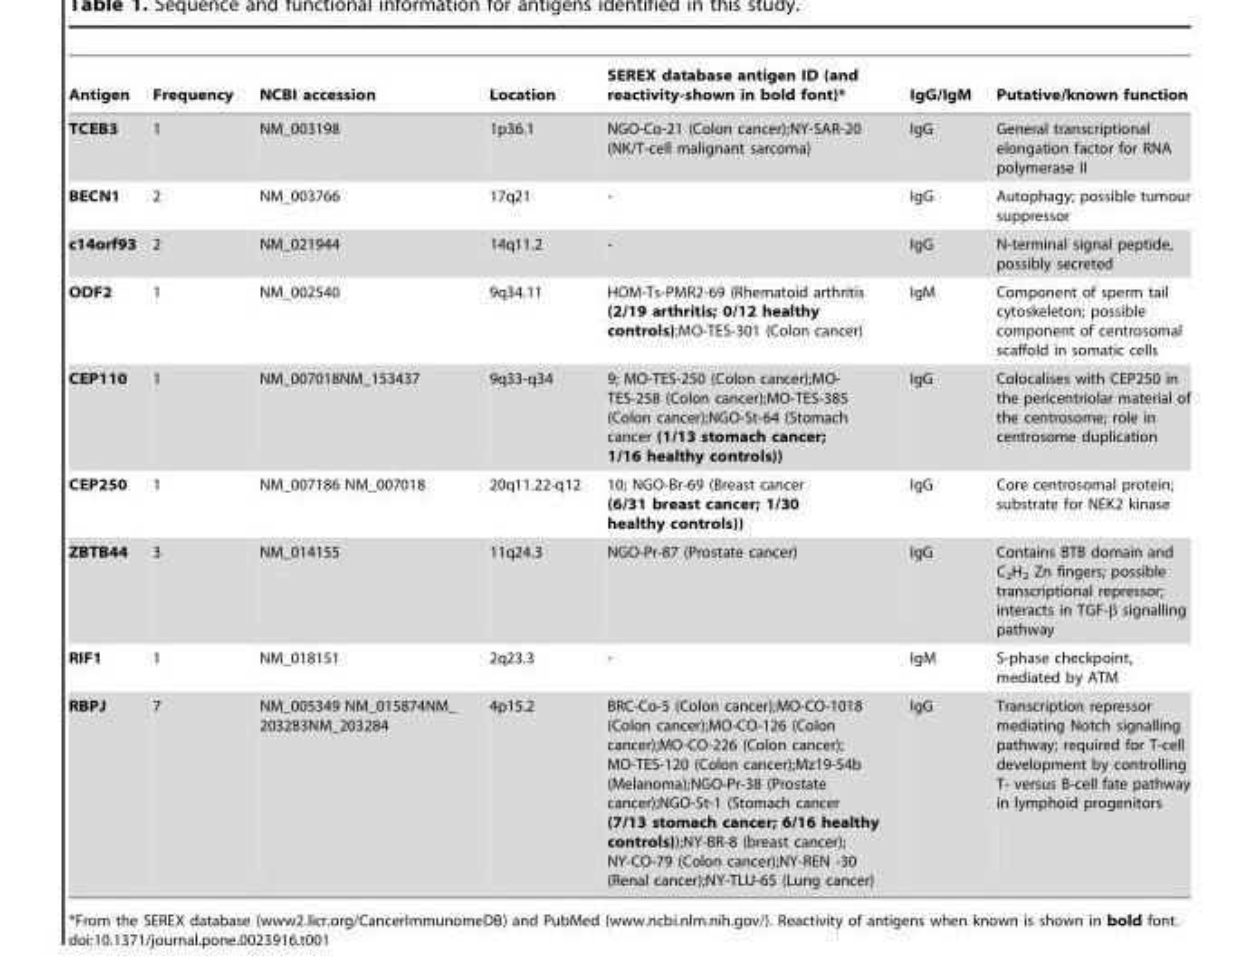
<table><thead><tr><td>Antigen</td><td>Frequency</td><td>NCBI accession</td><td>Location</td><td>SEREX database antigen ID (and reactivity-shown in bold font)*</td><td>IgG/IgM</td><td>Putative/known function</td></tr></thead><tbody><tr><td>TCEB3</td><td>1</td><td>NM_003198</td><td>1p36.1</td><td>NGO-Co-21 (Colon cancer);NY-SAR-20 (NK/T-cell malignant sarcoma)</td><td>IgG</td><td>General transcriptional elongation factor for RNA polymerase II</td></tr><tr><td>BECN1</td><td>2</td><td>NM_003766</td><td>17q21</td><td>-</td><td>IgG</td><td>Autophagy; possible tumour suppressor</td></tr><tr><td>c14orf93</td><td>2</td><td>NM_021944</td><td>14q11.2</td><td>-</td><td>IgG</td><td>N-terminal signal peptide, possibly secreted</td></tr><tr><td>ODF2</td><td>1</td><td>NM_002540</td><td>9q34.11</td><td>HOM-Ts-PMR2-69 (Rhematoid arthritis (2/19 arthritis; 0/12 healthy controls);MO-TES-301 (Colon cancer)</td><td>IgM</td><td>Component of sperm tail cytoskeleton; possible component of centrosomal scaffold in somatic cells</td></tr><tr><td>CEP110</td><td>1</td><td>NM_007018NM_153437</td><td>9q33-q34</td><td>9; MO-TES-250 (Colon cancer);MO- TES-258 (Colon cancer);MO-TES-385 (Colon cancer);NGO-St-64 (Stomach cancer (1/13 stomach cancer; 1/16 healthy controls))</td><td>IgG</td><td>Colocalises with CEP250 in the pericentriolar material of the centrosome; role in centrosome duplication</td></tr><tr><td>CEP250</td><td>1</td><td>NM_007186 NM_007018</td><td>20q11.22-q12</td><td>10; NGO-Br-69 (Breast cancer (6/31 breast cancer; 1/30 healthy controls))</td><td>IgG</td><td>Core centrosomal protein; substrate for NEK2 kinase</td></tr><tr><td>ZBTB44</td><td>3</td><td>NM_014155</td><td>11q24.3</td><td>NGO-Pr-87 (Prostate cancer)</td><td>IgG</td><td>Contains BTB domain and C<sub>2</sub>H<sub>2</sub> Zn fingers; possible transcriptional repressor; interacts in TGF-β signalling pathway</td></tr><tr><td>RIF1</td><td>1</td><td>NM_018151</td><td>2q23.3</td><td>-</td><td>IgM</td><td>S-phase checkpoint, mediated by ATM</td></tr><tr><td>RBPJ</td><td>7</td><td>NM_005349 NM_015874NM_ 203283NM_203284</td><td>4p15.2</td><td>BRC-Co-5 (Colon cancer);MO-CO-1018 (Colon cancer);MO-CO-126 (Colon cancer);MO-CO-226 (Colon cancer); MO-TES-120 (Colon cancer);Mz19-54b (Melanoma);NGO-Pr-38 (Prostate cancer);NGO-St-1 (Stomach cancer (7/13 stomach cancer; 6/16 healthy controls));NY-BR-8 (breast cancer); NY-CO-79 (Colon cancer);NY-REN -30 (Renal cancer);NY-TLU-65 (Lung cancer)</td><td>IgG</td><td>Transcription repressor mediating Notch signalling pathway; required for T-cell development by controlling T- versus B-cell fate pathway in lymphoid progenitors</td></tr></tbody></table>